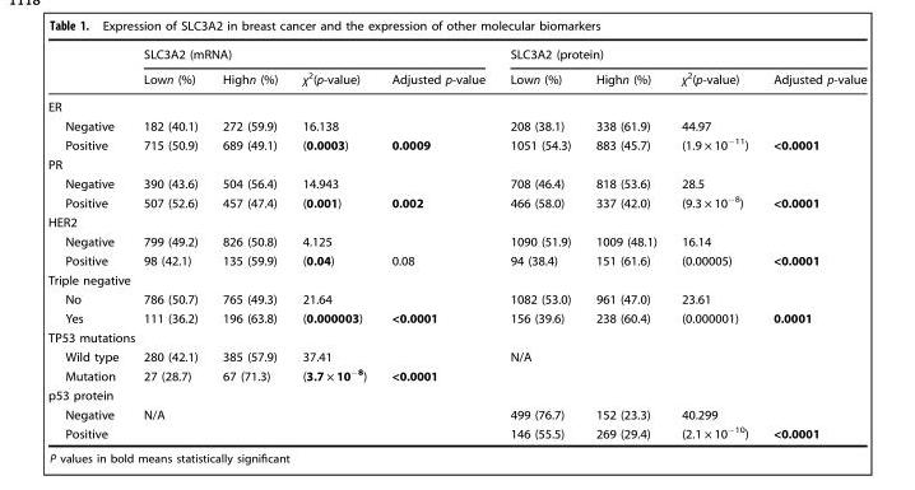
<table><thead><tr><td rowspan="2"></td><td colspan="4">SLC3A2 (mRNA)</td><td colspan="4">SLC3A2 (protein)</td></tr><tr><td>Lown (%)</td><td>Highn (%)</td><td>χ<sup>2</sup>(p-value)</td><td>Adjusted p-value</td><td>Lown (%)</td><td>Highn (%)</td><td>χ<sup>2</sup>(p-value)</td><td>Adjusted p-value</td></tr></thead><tbody><tr><td colspan="9">ER</td></tr><tr><td>Negative</td><td>182 (40.1)</td><td>272 (59.9)</td><td>16.138</td><td></td><td>208 (38.1)</td><td>338 (61.9)</td><td>44.97</td><td></td></tr><tr><td>Positive</td><td>715 (50.9)</td><td>689 (49.1)</td><td>(0.0003)</td><td>0.0009</td><td>1051 (54.3)</td><td>883 (45.7)</td><td>(1.9 × 10<sup>−11</sup>)</td><td>&lt;0.0001</td></tr><tr><td colspan="9">PR</td></tr><tr><td>Negative</td><td>390 (43.6)</td><td>504 (56.4)</td><td>14.943</td><td></td><td>708 (46.4)</td><td>818 (53.6)</td><td>28.5</td><td></td></tr><tr><td>Positive</td><td>507 (52.6)</td><td>457 (47.4)</td><td>(0.001)</td><td>0.002</td><td>466 (58.0)</td><td>337 (42.0)</td><td>(9.3 × 10<sup>−8</sup>)</td><td>&lt;0.0001</td></tr><tr><td colspan="9">HER2</td></tr><tr><td>Negative</td><td>799 (49.2)</td><td>826 (50.8)</td><td>4.125</td><td></td><td>1090 (51.9)</td><td>1009 (48.1)</td><td>16.14</td><td></td></tr><tr><td>Positive</td><td>98 (42.1)</td><td>135 (59.9)</td><td>(0.04)</td><td>0.08</td><td>94 (38.4)</td><td>151 (61.6)</td><td>(0.00005)</td><td>&lt;0.0001</td></tr><tr><td colspan="9">Triple negative</td></tr><tr><td>No</td><td>786 (50.7)</td><td>765 (49.3)</td><td>21.64</td><td></td><td>1082 (53.0)</td><td>961 (47.0)</td><td>23.61</td><td></td></tr><tr><td>Yes</td><td>111 (36.2)</td><td>196 (63.8)</td><td>(0.000003)</td><td>&lt;0.0001</td><td>156 (39.6)</td><td>238 (60.4)</td><td>(0.000001)</td><td>0.0001</td></tr><tr><td colspan="9">TP53 mutations</td></tr><tr><td>Wild type</td><td>280 (42.1)</td><td>385 (57.9)</td><td>37.41</td><td></td><td>N/A</td><td></td><td></td><td></td></tr><tr><td>Mutation</td><td>27 (28.7)</td><td>67 (71.3)</td><td>(3.7 × 10<sup>−8</sup>)</td><td>&lt;0.0001</td><td></td><td></td><td></td><td></td></tr><tr><td colspan="9">p53 protein</td></tr><tr><td>Negative</td><td>N/A</td><td></td><td></td><td></td><td>499 (76.7)</td><td>152 (23.3)</td><td>40.299</td><td></td></tr><tr><td>Positive</td><td></td><td></td><td></td><td></td><td>146 (55.5)</td><td>269 (29.4)</td><td>(2.1 × 10<sup>−10</sup>)</td><td>&lt;0.0001</td></tr></tbody></table>